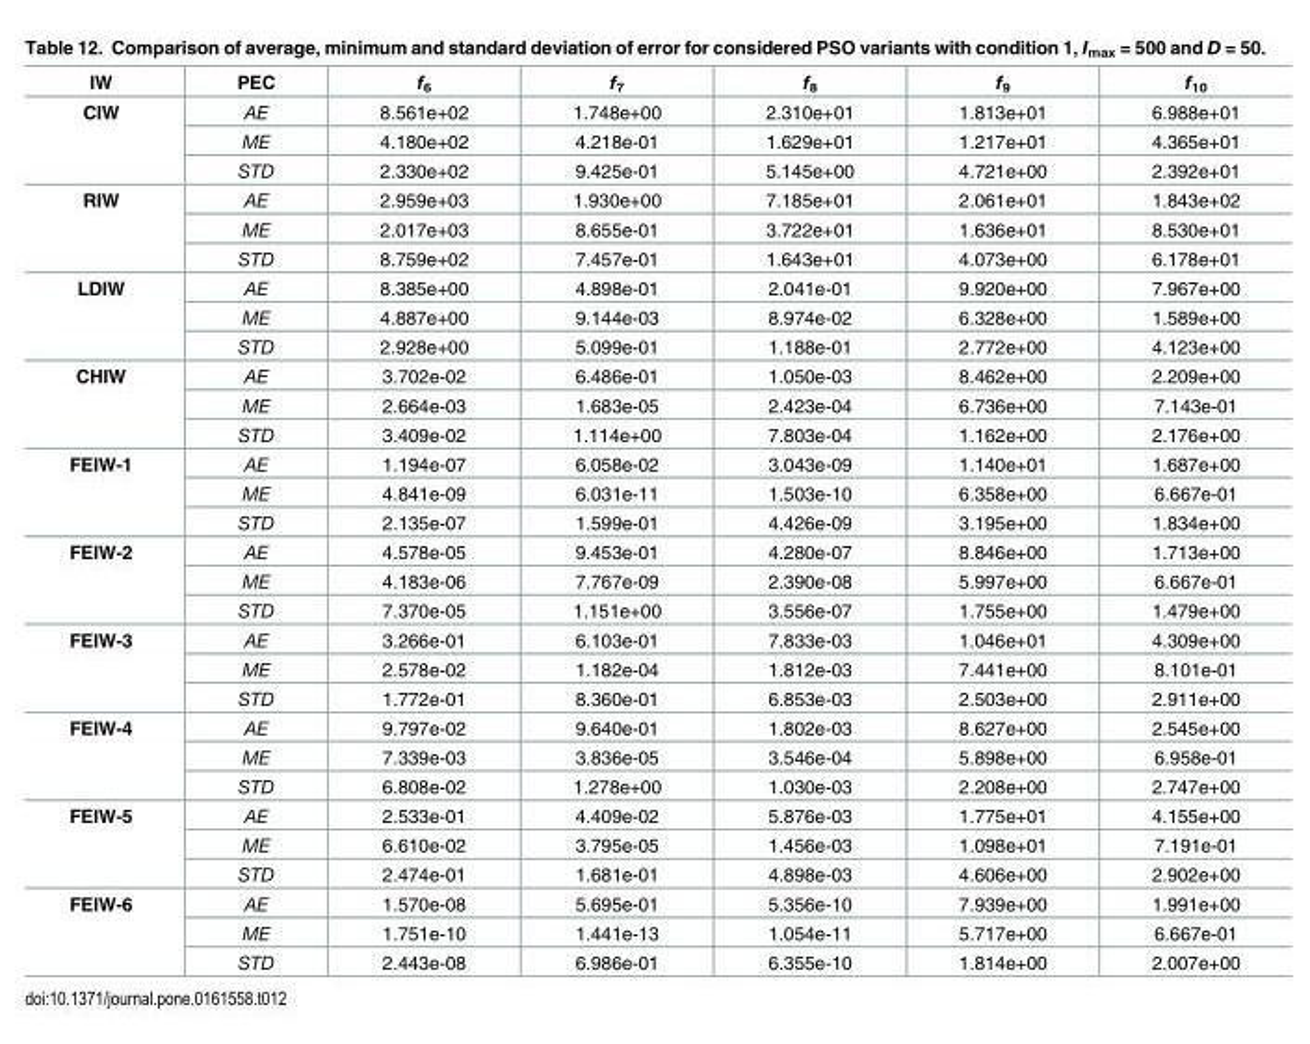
<table><thead><tr><td>IW</td><td>PEC</td><td>f<sub>6</sub></td><td>f<sub>7</sub></td><td>f<sub>8</sub></td><td>f<sub>9</sub></td><td>f<sub>10</sub></td></tr></thead><tbody><tr><td rowspan="3">CIW</td><td>AE</td><td>8.561e+02</td><td>1.748e+00</td><td>2.310e+01</td><td>1.813e+01</td><td>6.988e+01</td></tr><tr><td>ME</td><td>4.180e+02</td><td>4.218e-01</td><td>1.629e+01</td><td>1.217e+01</td><td>4.365e+01</td></tr><tr><td>STD</td><td>2.330e+02</td><td>9.425e-01</td><td>5.145e+00</td><td>4.721e+00</td><td>2.392e+01</td></tr><tr><td rowspan="3">RIW</td><td>AE</td><td>2.959e+03</td><td>1.930e+00</td><td>7.185e+01</td><td>2.061e+01</td><td>1.843e+02</td></tr><tr><td>ME</td><td>2.017e+03</td><td>8.655e-01</td><td>3.722e+01</td><td>1.636e+01</td><td>8.530e+01</td></tr><tr><td>STD</td><td>8.759e+02</td><td>7.457e-01</td><td>1.643e+01</td><td>4.073e+00</td><td>6.178e+01</td></tr><tr><td rowspan="3">LDIW</td><td>AE</td><td>8.385e+00</td><td>4.898e-01</td><td>2.041e-01</td><td>9.920e+00</td><td>7.967e+00</td></tr><tr><td>ME</td><td>4.887e+00</td><td>9.144e-03</td><td>8.974e-02</td><td>6.328e+00</td><td>1.589e+00</td></tr><tr><td>STD</td><td>2.928e+00</td><td>5.099e-01</td><td>1.188e-01</td><td>2.772e+00</td><td>4.123e+00</td></tr><tr><td rowspan="3">CHIW</td><td>AE</td><td>3.702e-02</td><td>6.486e-01</td><td>1.050e-03</td><td>8.462e+00</td><td>2.209e+00</td></tr><tr><td>ME</td><td>2.664e-03</td><td>1.683e-05</td><td>2.423e-04</td><td>6.736e+00</td><td>7.143e-01</td></tr><tr><td>STD</td><td>3.409e-02</td><td>1.114e+00</td><td>7.803e-04</td><td>1.162e+00</td><td>2.176e+00</td></tr><tr><td rowspan="3">FEIW-1</td><td>AE</td><td>1.194e-07</td><td>6.058e-02</td><td>3.043e-09</td><td>1.140e+01</td><td>1.687e+00</td></tr><tr><td>ME</td><td>4.841e-09</td><td>6.031e-11</td><td>1.503e-10</td><td>6.358e+00</td><td>6.667e-01</td></tr><tr><td>STD</td><td>2.135e-07</td><td>1.599e-01</td><td>4.426e-09</td><td>3.195e+00</td><td>1.834e+00</td></tr><tr><td rowspan="3">FEIW-2</td><td>AE</td><td>4.578e-05</td><td>9.453e-01</td><td>4.280e-07</td><td>8.846e+00</td><td>1.713e+00</td></tr><tr><td>ME</td><td>4.183e-06</td><td>7.767e-09</td><td>2.390e-08</td><td>5.997e+00</td><td>6.667e-01</td></tr><tr><td>STD</td><td>7.370e-05</td><td>1.151e+00</td><td>3.556e-07</td><td>1.755e+00</td><td>1.479e+00</td></tr><tr><td rowspan="3">FEIW-3</td><td>AE</td><td>3.266e-01</td><td>6.103e-01</td><td>7.833e-03</td><td>1.046e+01</td><td>4.309e+00</td></tr><tr><td>ME</td><td>2.578e-02</td><td>1.182e-04</td><td>1.812e-03</td><td>7.441e+00</td><td>8.101e-01</td></tr><tr><td>STD</td><td>1.772e-01</td><td>8.360e-01</td><td>6.853e-03</td><td>2.503e+00</td><td>2.911e+00</td></tr><tr><td rowspan="3">FEIW-4</td><td>AE</td><td>9.797e-02</td><td>9.640e-01</td><td>1.802e-03</td><td>8.627e+00</td><td>2.545e+00</td></tr><tr><td>ME</td><td>7.339e-03</td><td>3.836e-05</td><td>3.546e-04</td><td>5.898e+00</td><td>6.958e-01</td></tr><tr><td>STD</td><td>6.808e-02</td><td>1.278e+00</td><td>1.030e-03</td><td>2.208e+00</td><td>2.747e+00</td></tr><tr><td rowspan="3">FEIW-5</td><td>AE</td><td>2.533e-01</td><td>4.409e-02</td><td>5.876e-03</td><td>1.775e+01</td><td>4.155e+00</td></tr><tr><td>ME</td><td>6.610e-02</td><td>3.795e-05</td><td>1.456e-03</td><td>1.098e+01</td><td>7.191e-01</td></tr><tr><td>STD</td><td>2.474e-01</td><td>1.681e-01</td><td>4.898e-03</td><td>4.606e+00</td><td>2.902e+00</td></tr><tr><td rowspan="3">FEIW-6</td><td>AE</td><td>1.570e-08</td><td>5.695e-01</td><td>5.356e-10</td><td>7.939e+00</td><td>1.991e+00</td></tr><tr><td>ME</td><td>1.751e-10</td><td>1.441e-13</td><td>1.054e-11</td><td>5.717e+00</td><td>6.667e-01</td></tr><tr><td>STD</td><td>2.443e-08</td><td>6.986e-01</td><td>6.355e-10</td><td>1.814e+00</td><td>2.007e+00</td></tr></tbody></table>